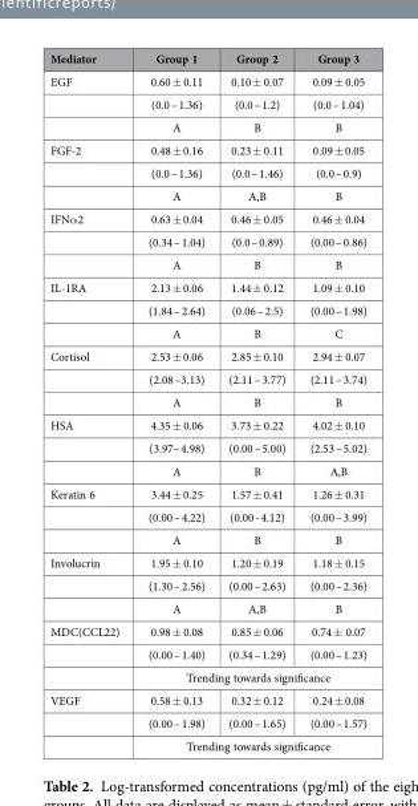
<table><thead><tr><td>Mediator</td><td>Group 1</td><td>Group 2</td><td>Group 3</td></tr></thead><tbody><tr><td rowspan="3">EGF</td><td>0.60 ± 0.11</td><td>0.10 ± 0.07</td><td>0.09 ± 0.05</td></tr><tr><td>(0.0 – 1.36)</td><td>(0.0 – 1.2)</td><td>(0.0 – 1.04)</td></tr><tr><td>A</td><td>B</td><td>B</td></tr><tr><td rowspan="3">FGF-2</td><td>0.48 ± 0.16</td><td>0.23 ± 0.11</td><td>0.09 ± 0.05</td></tr><tr><td>(0.0 – 1.36)</td><td>(0.0 – 1.46)</td><td>(0.0 – 0.9)</td></tr><tr><td>A</td><td>A,B</td><td>B</td></tr><tr><td rowspan="3">IFNα 2</td><td>0.63 ± 0.04</td><td>0.46 ± 0.05</td><td>0.46 ± 0.04</td></tr><tr><td>(0.34 – 1.04)</td><td>(0.0 – 0.89)</td><td>(0.00 – 0.86)</td></tr><tr><td>A</td><td>B</td><td>B</td></tr><tr><td rowspan="3">IL-1RA</td><td>2.13 ± 0.06</td><td>1.44 ± 0.12</td><td>1.09 ± 0.10</td></tr><tr><td>(1.84 – 2.64)</td><td>(0.06 – 2.5)</td><td>(0.00 – 1.98)</td></tr><tr><td>A</td><td>B</td><td>C</td></tr><tr><td rowspan="3">Cortisol</td><td>2.53 ± 0.06</td><td>2.85 ± 0.10</td><td>2.94 ± 0.07</td></tr><tr><td>(2.08 –3.13)</td><td>(2.11 – 3.77)</td><td>(2.11 – 3.74)</td></tr><tr><td>A</td><td>B</td><td>B</td></tr><tr><td rowspan="3">HSA</td><td>4.35 ± 0.06</td><td>3.73 ± 0.22</td><td>4.02 ± 0.10</td></tr><tr><td>(3.97– 4.98)</td><td>(0.00 – 5.00)</td><td>(2.53 – 5.02)</td></tr><tr><td>A</td><td>B</td><td>A,B</td></tr><tr><td rowspan="3">Keratin 6</td><td>3.44 ± 0.25</td><td>1.57 ± 0.41</td><td>1.26 ± 0.31</td></tr><tr><td>(0.00 – 4.22)</td><td>(0.00 - 4.12)</td><td>(0.00 – 3.99)</td></tr><tr><td>A</td><td>B</td><td>B</td></tr><tr><td rowspan="3">Involucrin</td><td>1.95 ± 0.10</td><td>1.20 ± 0.19</td><td>1.18 ± 0.15</td></tr><tr><td>(1.30 – 2.56)</td><td>(0.00 – 2.63)</td><td>(0.00 – 2.36)</td></tr><tr><td>A</td><td>A,B</td><td>B</td></tr><tr><td rowspan="3">MDC(CCL22)</td><td>0.98 ± 0.08</td><td>0.85 ± 0.06</td><td>0.74 ± 0.07</td></tr><tr><td>(0.00 – 1.40)</td><td>(0.34 – 1.29)</td><td>(0.00 – 1.23)</td></tr><tr><td colspan="3">Trending towards significance</td></tr><tr><td rowspan="3">VEGF</td><td>0.58 ± 0.13</td><td>0.32 ± 0.12</td><td>0.24 ± 0.08</td></tr><tr><td>(0.00 – 1.98)</td><td>(0.00 – 1.65)</td><td>(0.00 – 1.57)</td></tr><tr><td colspan="3">Trending towards significance</td></tr></tbody></table>